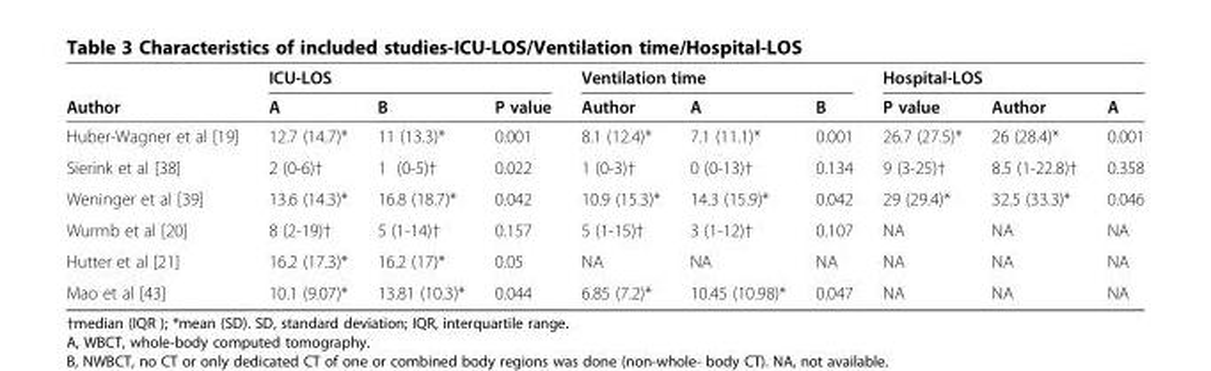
<table><thead><tr><td rowspan="2">Author</td><td colspan="3">ICU-LOS</td><td colspan="3">Ventilation time</td><td colspan="3">Hospital-LOS</td></tr><tr><td>A</td><td>B</td><td>P value</td><td>Author</td><td>A</td><td>B</td><td>P value</td><td>Author</td><td>A</td></tr></thead><tbody><tr><td>Huber-Wagner et al [19]</td><td>12.7 (14.7)*</td><td>11 (13.3)*</td><td>0.001</td><td>8.1 (12.4)*</td><td>7.1 (11.1)*</td><td>0.001</td><td>26.7 (27.5)*</td><td>26 (28.4)*</td><td>0.001</td></tr><tr><td>Sierink et al [38]</td><td>2 (0-6)†</td><td>1 (0-5)†</td><td>0.022</td><td>1 (0-3)†</td><td>0 (0-13)†</td><td>0.134</td><td>9 (3-25)†</td><td>8.5 (1-22.8)†</td><td>0.358</td></tr><tr><td>Weninger et al [39]</td><td>13.6 (14.3)*</td><td>16.8 (18.7)*</td><td>0.042</td><td>10.9 (15.3)*</td><td>14.3 (15.9)*</td><td>0.042</td><td>29 (29.4)*</td><td>32.5 (33.3)*</td><td>0.046</td></tr><tr><td>Wurmb et al [20]</td><td>8 (2-19)†</td><td>5 (1-14)†</td><td>0.157</td><td>5 (1-15)†</td><td>3 (1-12)†</td><td>0.107</td><td>NA</td><td>NA</td><td>NA</td></tr><tr><td>Hutter et al [21]</td><td>16.2 (17.3)*</td><td>16.2 (17)*</td><td>0.05</td><td>NA</td><td>NA</td><td>NA</td><td>NA</td><td>NA</td><td>NA</td></tr><tr><td>Mao et al [43]</td><td>10.1 (9.07)*</td><td>13.81 (10.3)*</td><td>0.044</td><td>6.85 (7.2)*</td><td>10.45 (10.98)*</td><td>0.047</td><td>NA</td><td>NA</td><td>NA</td></tr></tbody></table>